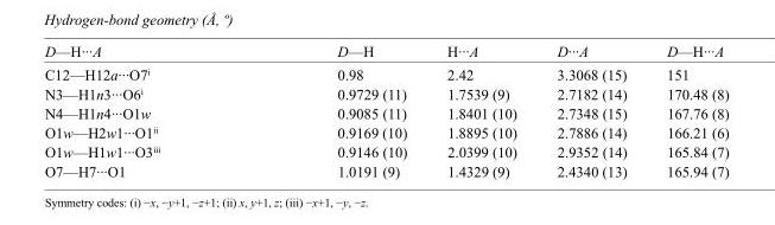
<table><tbody><tr><td>D—H···A</td><td>D—H</td><td>H···A</td><td>D···A</td><td>D—H···A</td></tr><tr><td>C12—H12a···O7<sup>i</sup></td><td>0.98</td><td>2.42</td><td>3.3068 (15)</td><td>151</td></tr><tr><td>N3—H1n3···O6<sup>i</sup></td><td>0.9729 (11)</td><td>1.7539 (9)</td><td>2.7182 (14)</td><td>170.48 (8)</td></tr><tr><td>N4—H1n4···O1w</td><td>0.9085 (11)</td><td>1.8401 (10)</td><td>2.7348 (15)</td><td>167.76 (8)</td></tr><tr><td>O1w—H2w1···O1<sup>ii</sup></td><td>0.9169 (10)</td><td>1.8895 (10)</td><td>2.7886 (14)</td><td>166.21 (6)</td></tr><tr><td>O1w—H1w1···O3<sup>iii</sup></td><td>0.9146 (10)</td><td>2.0399 (10)</td><td>2.9352 (14)</td><td>165.84 (7)</td></tr><tr><td>O7—H7···O1</td><td>1.0191 (9)</td><td>1.4329 (9)</td><td>2.4340 (13)</td><td>165.94 (7)</td></tr></tbody></table>